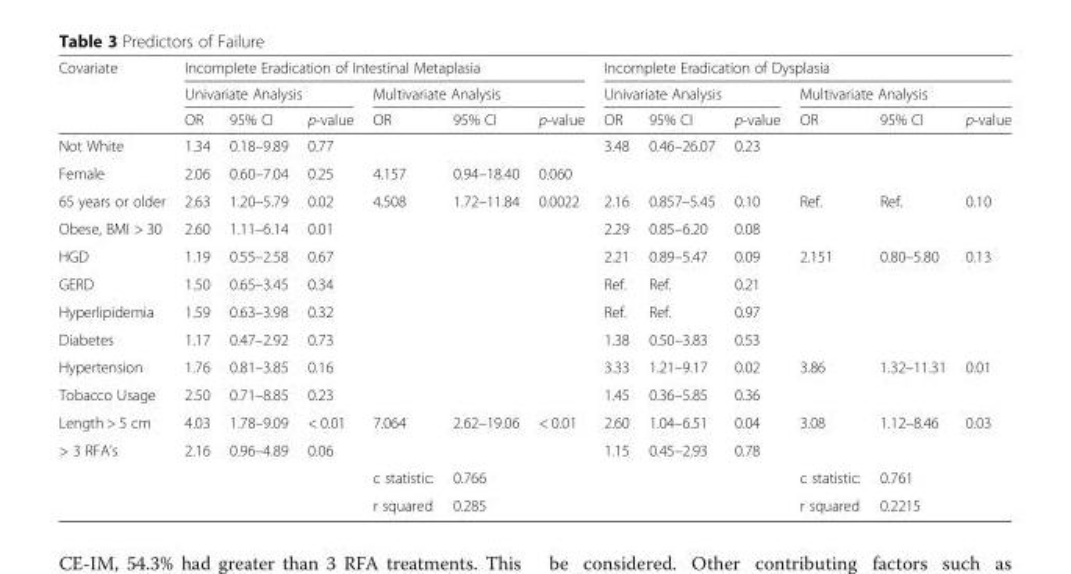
<table><thead><tr><td rowspan="3">Covariate</td><td colspan="6">Incomplete Eradication of Intestinal Metaplasia</td><td colspan="6">Incomplete Eradication of Dysplasia</td></tr><tr><td colspan="3">Univariate Analysis</td><td colspan="3">Multivariate Analysis</td><td colspan="3">Univariate Analysis</td><td colspan="3">Multivariate Analysis</td></tr><tr><td>OR</td><td>95% CI</td><td>p-value</td><td>OR</td><td>95% CI</td><td>p-value</td><td>OR</td><td>95% CI</td><td>p-value</td><td>OR</td><td>95% CI</td><td>p-value</td></tr></thead><tbody><tr><td>Not White</td><td>1.34</td><td>0.18–9.89</td><td>0.77</td><td></td><td></td><td></td><td>3.48</td><td>0.46–26.07</td><td>0.23</td><td></td><td></td><td></td></tr><tr><td>Female</td><td>2.06</td><td>0.60–7.04</td><td>0.25</td><td>4.157</td><td>0.94–18.40</td><td>0.060</td><td></td><td></td><td></td><td></td><td></td><td></td></tr><tr><td>65 years or older</td><td>2.63</td><td>1.20–5.79</td><td>0.02</td><td>4.508</td><td>1.72–11.84</td><td>0.0022</td><td>2.16</td><td>0.857–5.45</td><td>0.10</td><td>Ref.</td><td>Ref.</td><td>0.10</td></tr><tr><td>Obese, BMI &gt; 30</td><td>2.60</td><td>1.11–6.14</td><td>0.01</td><td></td><td></td><td></td><td>2.29</td><td>0.85–6.20</td><td>0.08</td><td></td><td></td><td></td></tr><tr><td>HGD</td><td>1.19</td><td>0.55–2.58</td><td>0.67</td><td></td><td></td><td></td><td>2.21</td><td>0.89–5.47</td><td>0.09</td><td>2.151</td><td>0.80–5.80</td><td>0.13</td></tr><tr><td>GERD</td><td>1.50</td><td>0.65–3.45</td><td>0.34</td><td></td><td></td><td></td><td>Ref.</td><td>Ref.</td><td>0.21</td><td></td><td></td><td></td></tr><tr><td>Hyperlipidemia</td><td>1.59</td><td>0.63–3.98</td><td>0.32</td><td></td><td></td><td></td><td>Ref.</td><td>Ref.</td><td>0.97</td><td></td><td></td><td></td></tr><tr><td>Diabetes</td><td>1.17</td><td>0.47–2.92</td><td>0.73</td><td></td><td></td><td></td><td>1.38</td><td>0.50–3.83</td><td>0.53</td><td></td><td></td><td></td></tr><tr><td>Hypertension</td><td>1.76</td><td>0.81–3.85</td><td>0.16</td><td></td><td></td><td></td><td>3.33</td><td>1.21–9.17</td><td>0.02</td><td>3.86</td><td>1.32–11.31</td><td>0.01</td></tr><tr><td>Tobacco Usage</td><td>2.50</td><td>0.71–8.85</td><td>0.23</td><td></td><td></td><td></td><td>1.45</td><td>0.36–5.85</td><td>0.36</td><td></td><td></td><td></td></tr><tr><td>Length &gt; 5 cm</td><td>4.03</td><td>1.78–9.09</td><td>&lt; 0.01</td><td>7.064</td><td>2.62–19.06</td><td>&lt; 0.01</td><td>2.60</td><td>1.04–6.51</td><td>0.04</td><td>3.08</td><td>1.12–8.46</td><td>0.03</td></tr><tr><td rowspan="3">&gt; 3 RFA’s</td><td>2.16</td><td>0.96–4.89</td><td>0.06</td><td></td><td></td><td></td><td>1.15</td><td>0.45–2.93</td><td>0.78</td><td></td><td></td><td></td></tr><tr><td></td><td></td><td></td><td>c statistic:</td><td>0.766</td><td></td><td></td><td></td><td></td><td>c statistic:</td><td>0.761</td><td></td></tr><tr><td></td><td></td><td></td><td>r squared</td><td>0.285</td><td></td><td></td><td></td><td></td><td>r squared</td><td>0.2215</td><td></td></tr></tbody></table>